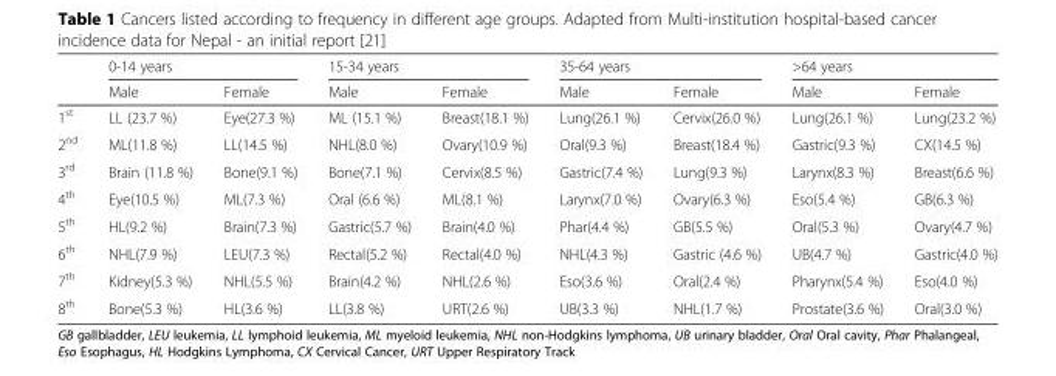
<table><thead><tr><td rowspan="2"></td><td colspan="2">0-14 years</td><td colspan="2">15-34 years</td><td colspan="2">35-64 years</td><td colspan="2">&gt;64 years</td></tr><tr><td>Male</td><td>Female</td><td>Male</td><td>Female</td><td>Male</td><td>Female</td><td>Male</td><td>Female</td></tr></thead><tbody><tr><td>1<sup>st</sup></td><td>LL (23.7 %)</td><td>Eye(27.3 %)</td><td>ML (15.1 %)</td><td>Breast(18.1 %)</td><td>Lung(26.1 %)</td><td>Cervix(26.0 %)</td><td>Lung(26.1 %)</td><td>Lung(23.2 %)</td></tr><tr><td>2<sup>nd</sup></td><td>ML(11.8 %)</td><td>LL(14.5 %)</td><td>NHL(8.0 %)</td><td>Ovary(10.9 %)</td><td>Oral(9.3 %)</td><td>Breast(18.4 %)</td><td>Gastric(9.3 %)</td><td>CX(14.5 %)</td></tr><tr><td>3<sup>rd</sup></td><td>Brain (11.8 %)</td><td>Bone(9.1 %)</td><td>Bone(7.1 %)</td><td>Cervix(8.5 %)</td><td>Gastric(7.4 %)</td><td>Lung(9.3 %)</td><td>Larynx(8.3 %)</td><td>Breast(6.6 %)</td></tr><tr><td>4<sup>th</sup></td><td>Eye(10.5 %)</td><td>ML(7.3 %)</td><td>Oral (6.6 %)</td><td>ML(8.1 %)</td><td>Larynx(7.0 %)</td><td>Ovary(6.3 %)</td><td>Eso(5.4 %)</td><td>GB(6.3 %)</td></tr><tr><td>5<sup>th</sup></td><td>HL(9.2 %)</td><td>Brain(7.3 %)</td><td>Gastric(5.7 %)</td><td>Brain(4.0 %)</td><td>Phar(4.4 %)</td><td>GB(5.5 %)</td><td>Oral(5.3 %)</td><td>Ovary(4.7 %)</td></tr><tr><td>6<sup>th</sup></td><td>NHL(7.9 %)</td><td>LEU(7.3 %)</td><td>Rectal(5.2 %)</td><td>Rectal(4.0 %)</td><td>NHL(4.3 %)</td><td>Gastric (4.6 %)</td><td>UB(4.7 %)</td><td>Gastric(4.0 %)</td></tr><tr><td>7<sup>th</sup></td><td>Kidney(5.3 %)</td><td>NHL(5.5 %)</td><td>Brain(4.2 %)</td><td>NHL(2.6 %)</td><td>Eso(3.6 %)</td><td>Oral(2.4 %)</td><td>Pharynx(5.4 %)</td><td>Eso(4.0 %)</td></tr><tr><td>8<sup>th</sup></td><td>Bone(5.3 %)</td><td>HL(3.6 %)</td><td>LL(3.8 %)</td><td>URT(2.6 %)</td><td>UB(3.3 %)</td><td>NHL(1.7 %)</td><td>Prostate(3.6 %)</td><td>Oral(3.0 %)</td></tr></tbody></table>